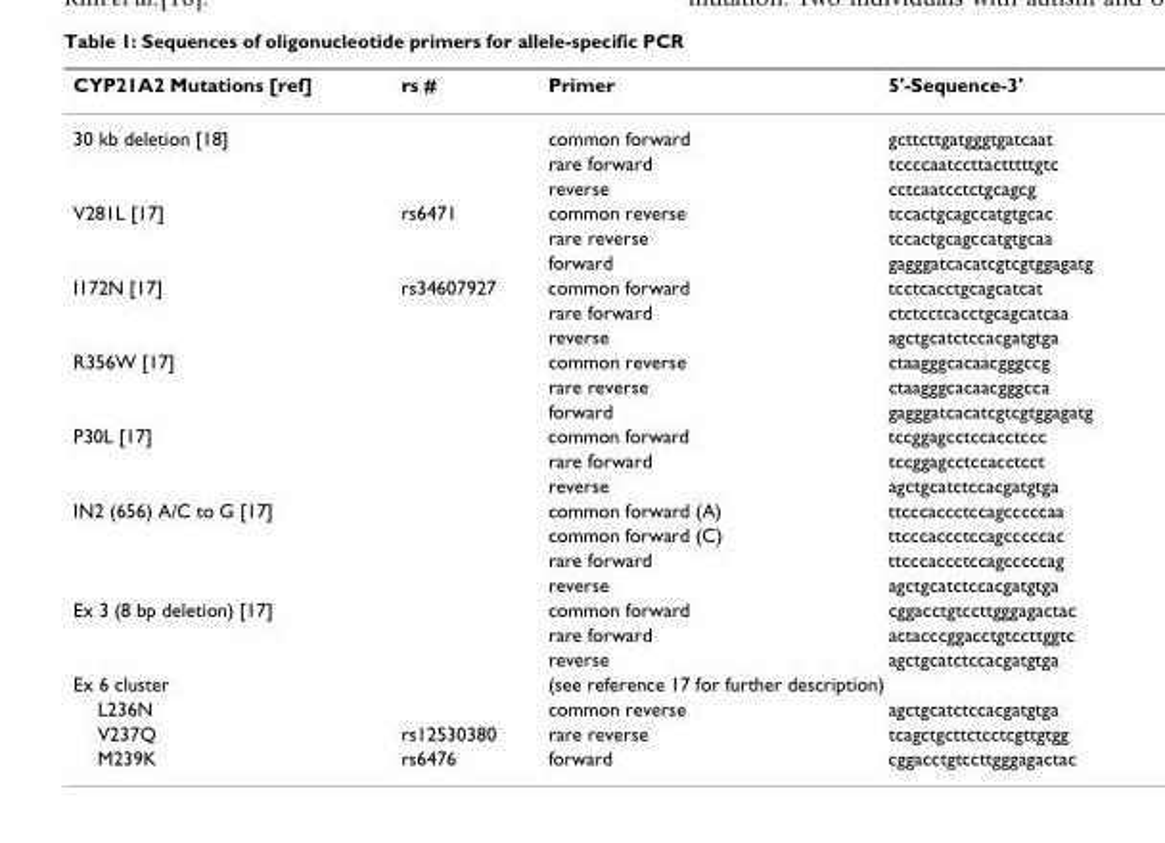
<table><thead><tr><td>CYP21A2 Mutations [ref]</td><td>rs #</td><td>Primer</td><td>5&#x27;-Sequence-3&#x27;</td></tr></thead><tbody><tr><td rowspan="3">30 kb deletion [18]</td><td></td><td>common forward</td><td>gcttcttgatgggtgatcaat</td></tr><tr><td></td><td>rare forward</td><td>tccccaatccttactttttgtc</td></tr><tr><td></td><td>reverse</td><td>cctcaatcctctgcagcg</td></tr><tr><td rowspan="3">V281L [17]</td><td>rs6471</td><td>common reverse</td><td>tccactgcagccatgtgcac</td></tr><tr><td></td><td>rare reverse</td><td>tccactgcagccatgtgcaa</td></tr><tr><td></td><td>forward</td><td>gagggatcacatcgtcgtggagatg</td></tr><tr><td rowspan="3">I172N [17]</td><td>rs34607927</td><td>common forward</td><td>tcctcacctgcagcatcat</td></tr><tr><td></td><td>rare forward</td><td>ctctcctcacctgcagcatcaa</td></tr><tr><td></td><td>reverse</td><td>agctgcatctccacgatgtga</td></tr><tr><td rowspan="3">R356W [17]</td><td></td><td>common reverse</td><td>ctaagggcacaacgggccg</td></tr><tr><td></td><td>rare reverse</td><td>ctaagggcacaacgggcca</td></tr><tr><td></td><td>forward</td><td>gagggatcacatcgtcgtggagatg</td></tr><tr><td rowspan="3">P30L [17]</td><td></td><td>common forward</td><td>tccggagcctccacctccc</td></tr><tr><td></td><td>rare forward</td><td>tccggagcctccacctcct</td></tr><tr><td></td><td>reverse</td><td>agctgcatctccacgatgtga</td></tr><tr><td rowspan="4">IN2 (656) A/C to G [17]</td><td></td><td>common forward (A)</td><td>ttcccaccctccagcccccaa</td></tr><tr><td></td><td>common forward (C)</td><td>ttcccaccctccagcccccac</td></tr><tr><td></td><td>rare forward</td><td>ttcccaccctccagcccccag</td></tr><tr><td></td><td>reverse</td><td>agctgcatctccacgatgtga</td></tr><tr><td rowspan="3">Ex 3 (8 bp deletion) [17]</td><td></td><td>common forward</td><td>cggacctgtccttgggagactac</td></tr><tr><td></td><td>rare forward</td><td>actacccggacctgtccttggtc</td></tr><tr><td></td><td>reverse</td><td>agctgcatctccacgatgtga</td></tr><tr><td>Ex 6 cluster</td><td></td><td colspan="2">(see reference 17 for further description)</td></tr><tr><td>L236N</td><td></td><td>common reverse</td><td>agctgcatctccacgatgtga</td></tr><tr><td>V237Q</td><td>rs12530380</td><td>rare reverse</td><td>tcagctgcttctcctcgttgtgg</td></tr><tr><td>M239K</td><td>rs6476</td><td>forward</td><td>cggacctgtccttgggagactac</td></tr></tbody></table>